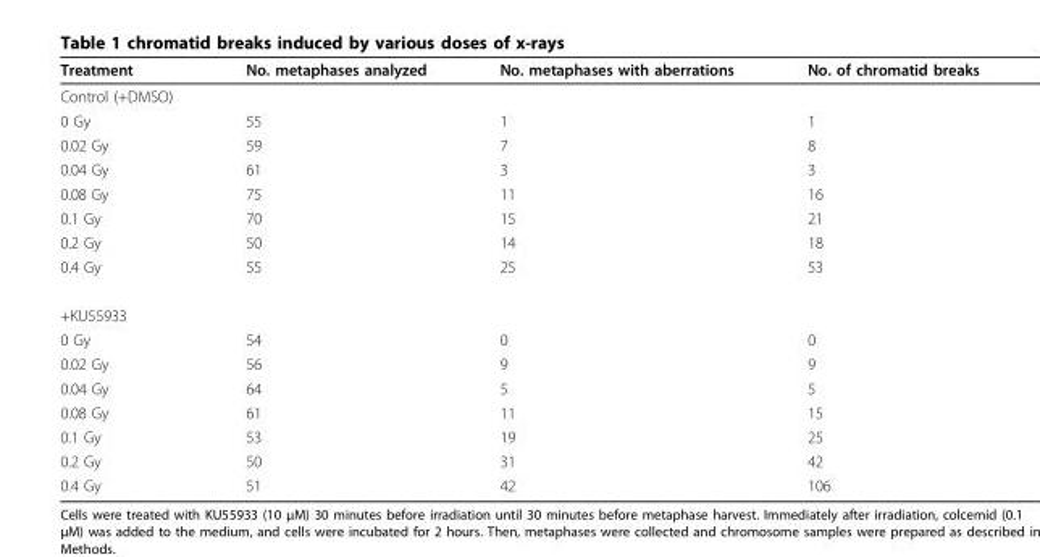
<table><thead><tr><td>Treatment</td><td>No. metaphases analyzed</td><td>No. metaphases with aberrations</td><td>No. of chromatid breaks</td></tr></thead><tbody><tr><td colspan="4">Control (+DMSO)</td></tr><tr><td>0 Gy</td><td>55</td><td>1</td><td>1</td></tr><tr><td>0.02 Gy</td><td>59</td><td>7</td><td>8</td></tr><tr><td>0.04 Gy</td><td>61</td><td>3</td><td>3</td></tr><tr><td>0.08 Gy</td><td>75</td><td>11</td><td>16</td></tr><tr><td>0.1 Gy</td><td>70</td><td>15</td><td>21</td></tr><tr><td>0.2 Gy</td><td>50</td><td>14</td><td>18</td></tr><tr><td>0.4 Gy</td><td>55</td><td>25</td><td>53</td></tr><tr><td colspan="4">+KU55933</td></tr><tr><td>0 Gy</td><td>54</td><td>0</td><td>0</td></tr><tr><td>0.02 Gy</td><td>56</td><td>9</td><td>9</td></tr><tr><td>0.04 Gy</td><td>64</td><td>5</td><td>5</td></tr><tr><td>0.08 Gy</td><td>61</td><td>11</td><td>15</td></tr><tr><td>0.1 Gy</td><td>53</td><td>19</td><td>25</td></tr><tr><td>0.2 Gy</td><td>50</td><td>31</td><td>42</td></tr><tr><td>0.4 Gy</td><td>51</td><td>42</td><td>106</td></tr></tbody></table>